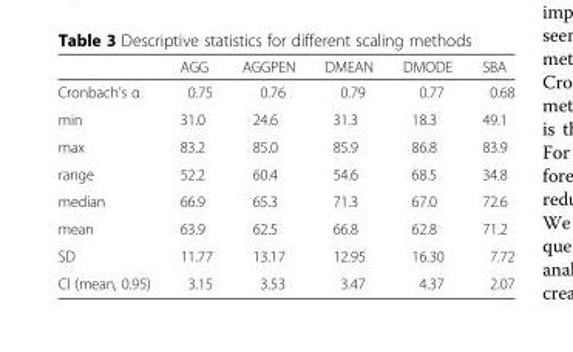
<table><thead><tr><td></td><td>AGG</td><td>AGGPEN</td><td>DMEAN</td><td>DMODE</td><td>SBA</td></tr></thead><tbody><tr><td>Cronbach’s α</td><td>0.75</td><td>0.76</td><td>0.79</td><td>0.77</td><td>0.68</td></tr><tr><td>min</td><td>31.0</td><td>24.6</td><td>31.3</td><td>18.3</td><td>49.1</td></tr><tr><td>max</td><td>83.2</td><td>85.0</td><td>85.9</td><td>86.8</td><td>83.9</td></tr><tr><td>range</td><td>52.2</td><td>60.4</td><td>54.6</td><td>68.5</td><td>34.8</td></tr><tr><td>median</td><td>66.9</td><td>65.3</td><td>71.3</td><td>67.0</td><td>72.6</td></tr><tr><td>mean</td><td>63.9</td><td>62.5</td><td>66.8</td><td>62.8</td><td>71.2</td></tr><tr><td>SD</td><td>11.77</td><td>13.17</td><td>12.95</td><td>16.30</td><td>7.72</td></tr><tr><td>CI (mean, 0.95)</td><td>3.15</td><td>3.53</td><td>3.47</td><td>4.37</td><td>2.07</td></tr></tbody></table>